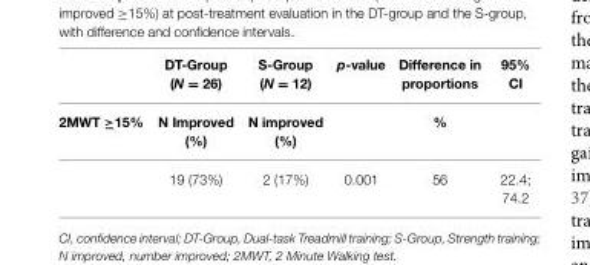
<table><thead><tr><td></td><td>DT-Group (N = 26)</td><td>S-Group (N = 12)</td><td>p-value</td><td>Difference in proportions</td><td>95% CI</td></tr></thead><tbody><tr><td rowspan="2">2MWT ≥15%</td><td>N Improved (%)</td><td>N improved (%)</td><td></td><td>%</td><td></td></tr><tr><td>19 (73%)</td><td>2 (17%)</td><td>0.001</td><td>56</td><td>22.4; 74.2</td></tr></tbody></table>